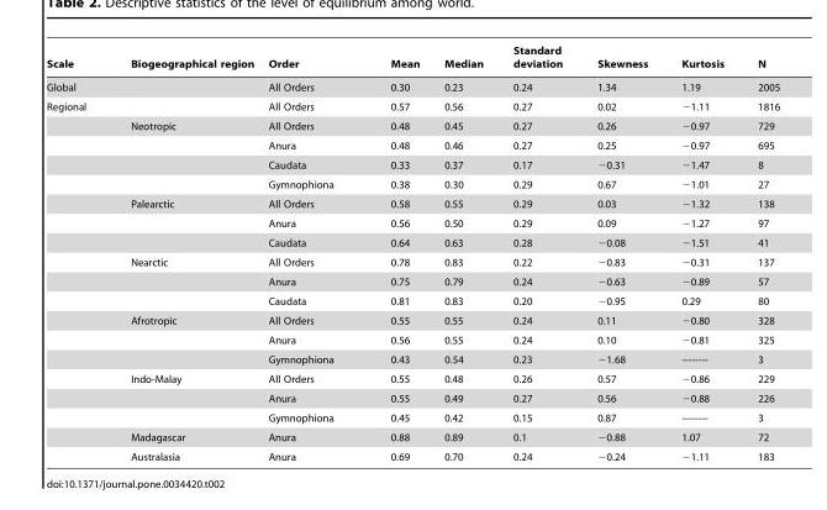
<table><thead><tr><td>Scale</td><td>Biogeographical region</td><td>Order</td><td>Mean</td><td>Median</td><td>Standard deviation</td><td>Skewness</td><td>Kurtosis</td><td>N</td></tr></thead><tbody><tr><td>Global</td><td></td><td>All Orders</td><td>0.30</td><td>0.23</td><td>0.24</td><td>1.34</td><td>1.19</td><td>2005</td></tr><tr><td rowspan="19">Regional</td><td></td><td>All Orders</td><td>0.57</td><td>0.56</td><td>0.27</td><td>0.02</td><td>−1.11</td><td>1816</td></tr><tr><td>Neotropic</td><td>All Orders</td><td>0.48</td><td>0.45</td><td>0.27</td><td>0.26</td><td>−0.97</td><td>729</td></tr><tr><td></td><td>Anura</td><td>0.48</td><td>0.46</td><td>0.27</td><td>0.25</td><td>−0.97</td><td>695</td></tr><tr><td></td><td>Caudata</td><td>0.33</td><td>0.37</td><td>0.17</td><td>−0.31</td><td>−1.47</td><td>8</td></tr><tr><td></td><td>Gymnophiona</td><td>0.38</td><td>0.30</td><td>0.29</td><td>0.67</td><td>−1.01</td><td>27</td></tr><tr><td>Palearctic</td><td>All Orders</td><td>0.58</td><td>0.55</td><td>0.29</td><td>0.03</td><td>−1.32</td><td>138</td></tr><tr><td></td><td>Anura</td><td>0.56</td><td>0.50</td><td>0.29</td><td>0.09</td><td>−1.27</td><td>97</td></tr><tr><td></td><td>Caudata</td><td>0.64</td><td>0.63</td><td>0.28</td><td>−0.08</td><td>−1.51</td><td>41</td></tr><tr><td>Nearctic</td><td>All Orders</td><td>0.78</td><td>0.83</td><td>0.22</td><td>−0.83</td><td>−0.31</td><td>137</td></tr><tr><td></td><td>Anura</td><td>0.75</td><td>0.79</td><td>0.24</td><td>−0.63</td><td>−0.89</td><td>57</td></tr><tr><td></td><td>Caudata</td><td>0.81</td><td>0.83</td><td>0.20</td><td>−0.95</td><td>0.29</td><td>80</td></tr><tr><td>Afrotropic</td><td>All Orders</td><td>0.55</td><td>0.55</td><td>0.24</td><td>0.11</td><td>−0.80</td><td>328</td></tr><tr><td></td><td>Anura</td><td>0.56</td><td>0.55</td><td>0.24</td><td>0.10</td><td>−0.81</td><td>325</td></tr><tr><td></td><td>Gymnophiona</td><td>0.43</td><td>0.54</td><td>0.23</td><td>−1.68</td><td>--------</td><td>3</td></tr><tr><td>Indo-Malay</td><td>All Orders</td><td>0.55</td><td>0.48</td><td>0.26</td><td>0.57</td><td>−0.86</td><td>229</td></tr><tr><td></td><td>Anura</td><td>0.55</td><td>0.49</td><td>0.27</td><td>0.56</td><td>−0.88</td><td>226</td></tr><tr><td></td><td>Gymnophiona</td><td>0.45</td><td>0.42</td><td>0.15</td><td>0.87</td><td>--------</td><td>3</td></tr><tr><td>Madagascar</td><td>Anura</td><td>0.88</td><td>0.89</td><td>0.1</td><td>−0.88</td><td>1.07</td><td>72</td></tr><tr><td>Australasia</td><td>Anura</td><td>0.69</td><td>0.70</td><td>0.24</td><td>−0.24</td><td>−1.11</td><td>183</td></tr></tbody></table>